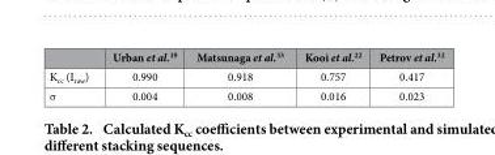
<table><thead><tr><td></td><td>Urban et al.<sup>19</sup></td><td>Matsunaga et al.<sup>33</sup></td><td>Kooi et al.<sup>22</sup></td><td>Petrov et al.<sup>32</sup></td></tr></thead><tbody><tr><td>K<sub>cc</sub> (I<sub>raw</sub>)</td><td>0.990</td><td>0.918</td><td>0.757</td><td>0.417</td></tr><tr><td>σ</td><td>0.004</td><td>0.008</td><td>0.016</td><td>0.023</td></tr></tbody></table>